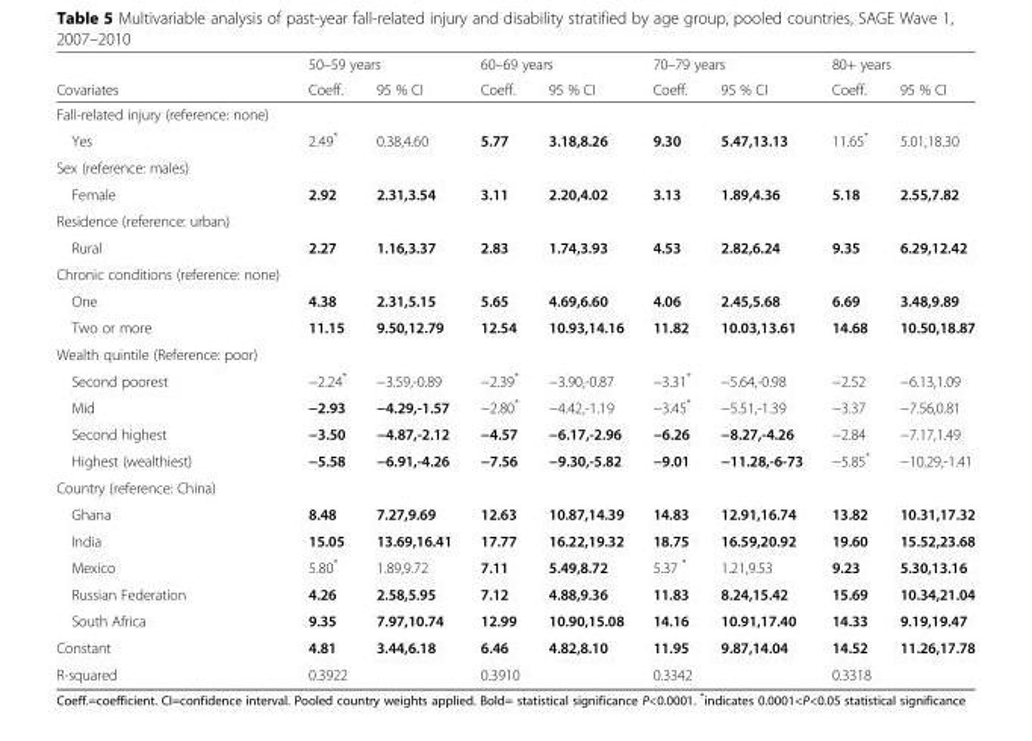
<table><thead><tr><td rowspan="2">Covariates</td><td colspan="2">50–59 years</td><td colspan="2">60–69 years</td><td colspan="2">70–79 years</td><td colspan="2">80+ years</td></tr><tr><td>Coeff.</td><td>95 % CI</td><td>Coeff.</td><td>95 % CI</td><td>Coeff.</td><td>95 % CI</td><td>Coeff.</td><td>95 % CI</td></tr></thead><tbody><tr><td colspan="9">Fall-related injury (reference: none)</td></tr><tr><td>Yes</td><td>2.49*</td><td>0.38,4.60</td><td>5.77</td><td>3.18,8.26</td><td>9.30</td><td>5.47,13.13</td><td>11.65*</td><td>5.01,18.30</td></tr><tr><td colspan="9">Sex (reference: males)</td></tr><tr><td>Female</td><td>2.92</td><td>2.31,3.54</td><td>3.11</td><td>2.20,4.02</td><td>3.13</td><td>1.89,4.36</td><td>5.18</td><td>2.55,7.82</td></tr><tr><td colspan="9">Residence (reference: urban)</td></tr><tr><td>Rural</td><td>2.27</td><td>1.16,3.37</td><td>2.83</td><td>1.74,3.93</td><td>4.53</td><td>2.82,6.24</td><td>9.35</td><td>6.29,12.42</td></tr><tr><td colspan="9">Chronic conditions (reference: none)</td></tr><tr><td>One</td><td>4.38</td><td>2.31,5.15</td><td>5.65</td><td>4.69,6.60</td><td>4.06</td><td>2.45,5.68</td><td>6.69</td><td>3.48,9.89</td></tr><tr><td>Two or more</td><td>11.15</td><td>9.50,12.79</td><td>12.54</td><td>10.93,14.16</td><td>11.82</td><td>10.03,13.61</td><td>14.68</td><td>10.50,18.87</td></tr><tr><td colspan="9">Wealth quintile (Reference: poor)</td></tr><tr><td>Second poorest</td><td>−2.24*</td><td>−3.59,-0.89</td><td>−2.39*</td><td>−3.90,-0.87</td><td>−3.31*</td><td>−5.64,-0.98</td><td>−2.52</td><td>−6.13,1.09</td></tr><tr><td>Mid</td><td>−2.93</td><td>−4.29,-1.57</td><td>−2.80*</td><td>−4.42,-1.19</td><td>−3.45*</td><td>−5.51,-1.39</td><td>−3.37</td><td>−7.56,0.81</td></tr><tr><td>Second highest</td><td>−3.50</td><td>−4.87,-2.12</td><td>−4.57</td><td>−6.17,-2.96</td><td>−6.26</td><td>−8.27,-4.26</td><td>−2.84</td><td>−7.17,1.49</td></tr><tr><td>Highest (wealthiest)</td><td>−5.58</td><td>−6.91,-4.26</td><td>−7.56</td><td>−9.30,-5.82</td><td>−9.01</td><td>−11.28,-6-73</td><td>−5.85*</td><td>−10.29,-1.41</td></tr><tr><td colspan="9">Country (reference: China)</td></tr><tr><td>Ghana</td><td>8.48</td><td>7.27,9.69</td><td>12.63</td><td>10.87,14.39</td><td>14.83</td><td>12.91,16.74</td><td>13.82</td><td>10.31,17.32</td></tr><tr><td>India</td><td>15.05</td><td>13.69,16.41</td><td>17.77</td><td>16.22,19.32</td><td>18.75</td><td>16.59,20.92</td><td>19.60</td><td>15.52,23.68</td></tr><tr><td>Mexico</td><td>5.80*</td><td>1.89,9.72</td><td>7.11</td><td>5.49,8.72</td><td>5.37 *</td><td>1.21,9.53</td><td>9.23</td><td>5.30,13.16</td></tr><tr><td>Russian Federation</td><td>4.26</td><td>2.58,5.95</td><td>7.12</td><td>4.88,9.36</td><td>11.83</td><td>8.24,15.42</td><td>15.69</td><td>10.34,21.04</td></tr><tr><td>South Africa</td><td>9.35</td><td>7.97,10.74</td><td>12.99</td><td>10.90,15.08</td><td>14.16</td><td>10.91,17.40</td><td>14.33</td><td>9.19,19.47</td></tr><tr><td>Constant</td><td>4.81</td><td>3.44,6.18</td><td>6.46</td><td>4.82,8.10</td><td>11.95</td><td>9.87,14.04</td><td>14.52</td><td>11.26,17.78</td></tr><tr><td>R-squared</td><td>0.3922</td><td></td><td>0.3910</td><td></td><td>0.3342</td><td></td><td>0.3318</td><td></td></tr></tbody></table>